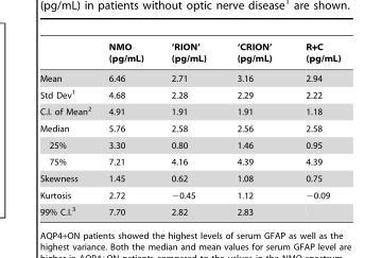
<table><thead><tr><td></td><td>NMO (pg/mL)</td><td>‘RION’ (pg/mL)</td><td>‘CRION’ (pg/mL)</td><td>R+C (pg/mL)</td></tr></thead><tbody><tr><td>Mean</td><td>6.46</td><td>2.71</td><td>3.16</td><td>2.94</td></tr><tr><td>Std Dev<sup>1</sup></td><td>4.68</td><td>2.28</td><td>2.29</td><td>2.22</td></tr><tr><td>C.I. of Mean<sup>2</sup></td><td>4.91</td><td>1.91</td><td>1.91</td><td>1.18</td></tr><tr><td>Median</td><td>5.76</td><td>2.58</td><td>2.56</td><td>2.58</td></tr><tr><td>25%</td><td>3.30</td><td>0.80</td><td>1.46</td><td>0.95</td></tr><tr><td>75%</td><td>7.21</td><td>4.16</td><td>4.39</td><td>4.39</td></tr><tr><td>Skewness</td><td>1.45</td><td>0.62</td><td>1.08</td><td>0.75</td></tr><tr><td>Kurtosis</td><td>2.72</td><td>−0.45</td><td>1.12</td><td>−0.09</td></tr><tr><td>99% C.I.<sup>3</sup></td><td>7.70</td><td>2.82</td><td>2.83</td><td></td></tr></tbody></table>